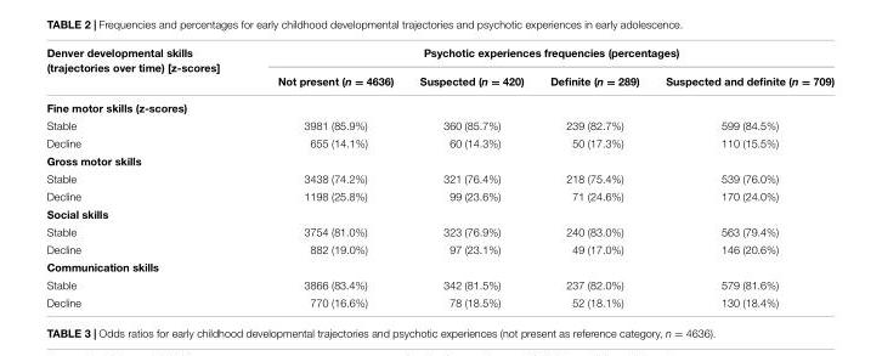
<table><thead><tr><td rowspan="2">Denver developmental skills (trajectories over time) [z-scores]</td><td colspan="4">Psychotic experiences frequencies (percentages)</td></tr><tr><td>Not present (n = 4636)</td><td>Suspected (n = 420)</td><td>Definite (n = 289)</td><td>Suspected and definite (n = 709)</td></tr></thead><tbody><tr><td colspan="5">Fine motor skills (z-scores)</td></tr><tr><td>Stable</td><td>3981 (85.9%)</td><td>360 (85.7%)</td><td>239 (82.7%)</td><td>599 (84.5%)</td></tr><tr><td>Decline</td><td>655 (14.1%)</td><td>60 (14.3%)</td><td>50 (17.3%)</td><td>110 (15.5%)</td></tr><tr><td colspan="5">Gross motor skills</td></tr><tr><td>Stable</td><td>3438 (74.2%)</td><td>321 (76.4%)</td><td>218 (75.4%)</td><td>539 (76.0%)</td></tr><tr><td>Decline</td><td>1198 (25.8%)</td><td>99 (23.6%)</td><td>71 (24.6%)</td><td>170 (24.0%)</td></tr><tr><td colspan="5">Social skills</td></tr><tr><td>Stable</td><td>3754 (81.0%)</td><td>323 (76.9%)</td><td>240 (83.0%)</td><td>563 (79.4%)</td></tr><tr><td>Decline</td><td>882 (19.0%)</td><td>97 (23.1%)</td><td>49 (17.0%)</td><td>146 (20.6%)</td></tr><tr><td colspan="5">Communication skills</td></tr><tr><td>Stable</td><td>3866 (83.4%)</td><td>342 (81.5%)</td><td>237 (82.0%)</td><td>579 (81.6%)</td></tr><tr><td>Decline</td><td>770 (16.6%)</td><td>78 (18.5%)</td><td>52 (18.1%)</td><td>130 (18.4%)</td></tr></tbody></table>